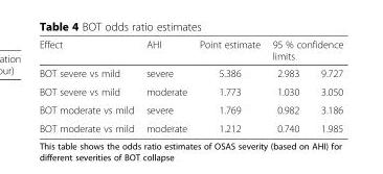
<table><thead><tr><td rowspan="2">Effect BOT severe vs mild</td><td rowspan="2">AHI severe</td><td rowspan="2">Point estimate 5.386</td><td colspan="2">95 % confidence limits</td></tr><tr><td>2.983</td><td>9.727</td></tr></thead><tbody><tr><td>BOT severe vs mild</td><td>moderate</td><td>1.773</td><td>1.030</td><td>3.050</td></tr><tr><td>BOT moderate vs mild</td><td>severe</td><td>1.769</td><td>0.982</td><td>3.186</td></tr><tr><td>BOT moderate vs mild</td><td>moderate</td><td>1.212</td><td>0.740</td><td>1.985</td></tr></tbody></table>